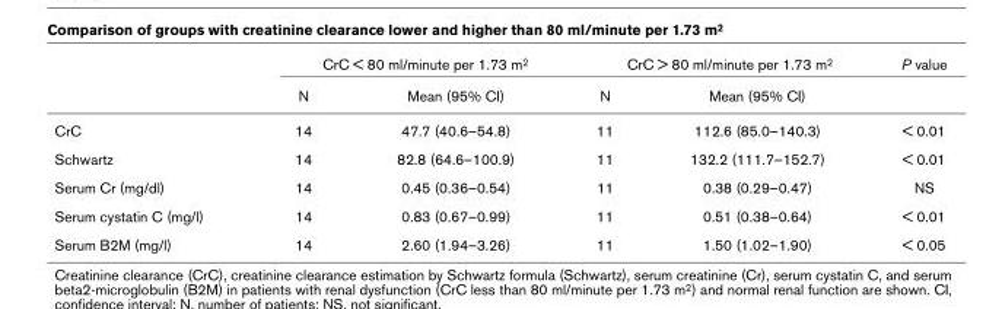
<table><thead><tr><td rowspan="2"></td><td colspan="2">CrC &lt; 80 ml/minute per 1.73 m<sup>2</sup></td><td colspan="2">CrC &gt; 80 ml/minute per 1.73 m<sup>2</sup></td><td rowspan="2">P value</td></tr><tr><td>N</td><td>Mean (95% CI)</td><td>N</td><td>Mean (95% CI)</td></tr></thead><tbody><tr><td>CrC</td><td>14</td><td>47.7 (40.6–54.8)</td><td>11</td><td>112.6 (85.0–140.3)</td><td>&lt; 0.01</td></tr><tr><td>Schwartz</td><td>14</td><td>82.8 (64.6–100.9)</td><td>11</td><td>132.2 (111.7–152.7)</td><td>&lt; 0.01</td></tr><tr><td>Serum Cr (mg/dl)</td><td>14</td><td>0.45 (0.36–0.54)</td><td>11</td><td>0.38 (0.29–0.47)</td><td>NS</td></tr><tr><td>Serum cystatin C (mg/l)</td><td>14</td><td>0.83 (0.67–0.99)</td><td>11</td><td>0.51 (0.38–0.64)</td><td>&lt; 0.01</td></tr><tr><td>Serum B2M (mg/l)</td><td>14</td><td>2.60 (1.94–3.26)</td><td>11</td><td>1.50 (1.02–1.90)</td><td>&lt; 0.05</td></tr></tbody></table>